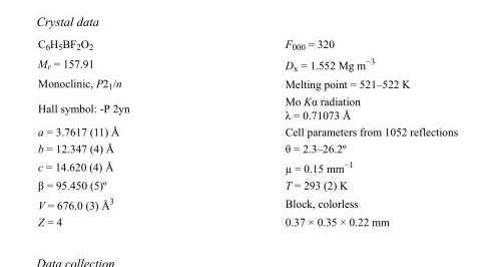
<table><tbody><tr><td>C<sub>6</sub>H<sub>5</sub>BF<sub>2</sub>O<sub>2</sub></td><td>F000 = 320</td></tr><tr><td>M<sub>r</sub> = 157.91</td><td>D<sub>x</sub> = 1.552 Mg m<sup>−3</sup></td></tr><tr><td>Monoclinic, P2<sub>1</sub>/n</td><td>Melting point = 521–522 K</td></tr><tr><td>Hall symbol: -P 2yn</td><td>Mo Kα radiation λ = 0.71073 Å</td></tr><tr><td>a = 3.7617 (11) Å</td><td>Cell parameters from 1052 reflections</td></tr><tr><td>b = 12.347 (4) Å</td><td>θ = 2.3–26.2º</td></tr><tr><td>c = 14.620 (4) Å</td><td>µ = 0.15 mm<sup>−1</sup></td></tr><tr><td>β = 95.450 (5)º</td><td>T = 293 (2) K</td></tr><tr><td>V = 676.0 (3) Å<sup>3</sup></td><td>Block, colorless</td></tr><tr><td>Z = 4</td><td>0.37 × 0.35 × 0.22 mm</td></tr></tbody></table>